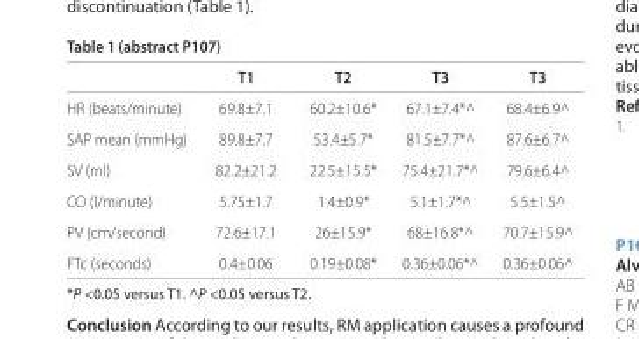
<table><thead><tr><td></td><td>T1</td><td>T2</td><td>T3</td><td>T3</td></tr></thead><tbody><tr><td>HR (beats/minute)</td><td>69.8±7.1</td><td>60.2±10.6*</td><td>67.1±7.4*^</td><td>68.4±6.9^</td></tr><tr><td>SAP mean (mmHg)</td><td>89.8±7.7</td><td>53.4±5.7*</td><td>81.5±7.7*^</td><td>87.6±6.7^</td></tr><tr><td>SV (ml)</td><td>82.2±21.2</td><td>22.5±15.5*</td><td>75.4±21.7*^</td><td>79.6±6.4^</td></tr><tr><td>CO (l/minute)</td><td>5.75±1.7</td><td>1.4±0.9*</td><td>5.1±1.7*^</td><td>5.5±1.5^</td></tr><tr><td>PV (cm/second)</td><td>72.6±17.1</td><td>26±15.9*</td><td>68±16.8*^</td><td>70.7±15.9^</td></tr><tr><td>FTc (seconds)</td><td>0.4±0.06</td><td>0.19±0.08*</td><td>0.36±0.06*^</td><td>0.36±0.06^</td></tr></tbody></table>